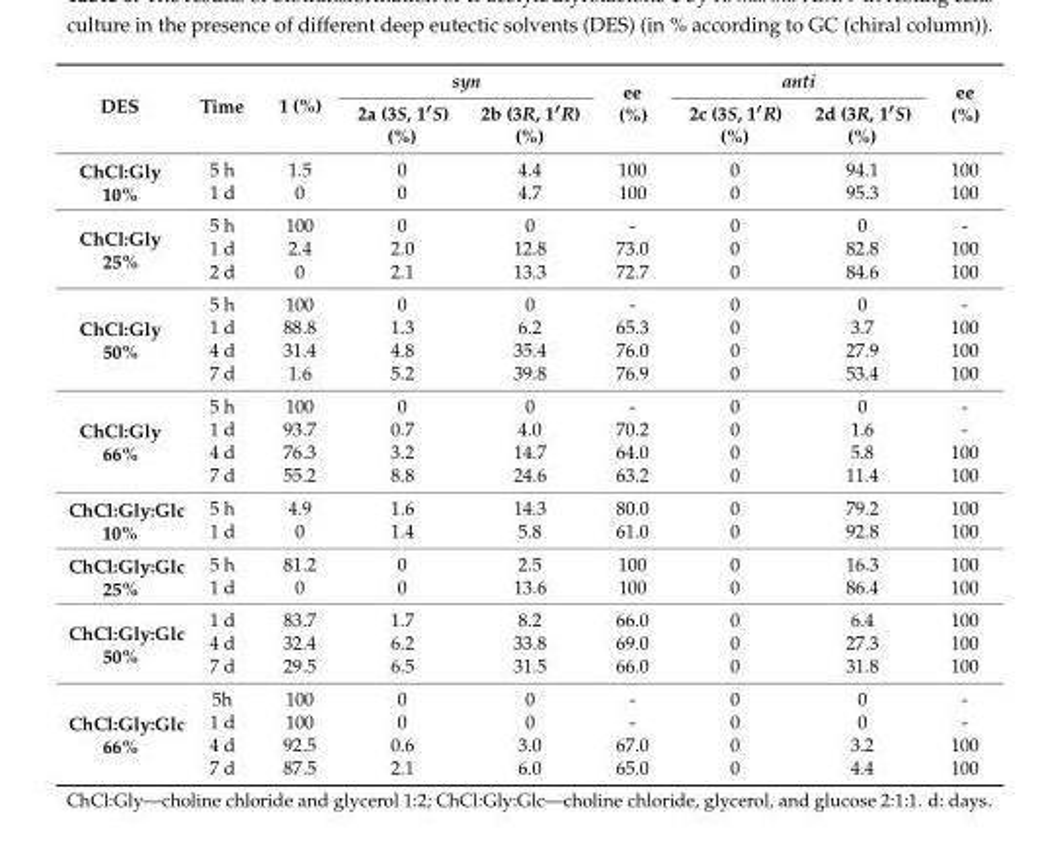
<table><thead><tr><td rowspan="2">DES</td><td rowspan="2">Time</td><td rowspan="2">1 (%)</td><td colspan="2">syn</td><td rowspan="2">ee (%)</td><td colspan="2">anti</td><td rowspan="2">ee (%)</td></tr><tr><td>2a (3S, 1′S) (%)</td><td>2b (3R, 1′R) (%)</td><td>2c (3S, 1′R) (%)</td><td>2d (3R, 1′S) (%)</td></tr></thead><tbody><tr><td rowspan="2">ChCl:Gly 10%</td><td>5 h</td><td>1.5</td><td>0</td><td>4.4</td><td>100</td><td>0</td><td>94.1</td><td>100</td></tr><tr><td>1 d</td><td>0</td><td>0</td><td>4.7</td><td>100</td><td>0</td><td>95.3</td><td>100</td></tr><tr><td rowspan="3">ChCl:Gly 25%</td><td>5 h</td><td>100</td><td>0</td><td>0</td><td>-</td><td>0</td><td>0</td><td>-</td></tr><tr><td>1 d</td><td>2.4</td><td>2.0</td><td>12.8</td><td>73.0</td><td>0</td><td>82.8</td><td>100</td></tr><tr><td>2 d</td><td>0</td><td>2.1</td><td>13.3</td><td>72.7</td><td>0</td><td>84.6</td><td>100</td></tr><tr><td rowspan="4">ChCl:Gly 50%</td><td>5 h</td><td>100</td><td>0</td><td>0</td><td>-</td><td>0</td><td>0</td><td>-</td></tr><tr><td>1 d</td><td>88.8</td><td>1.3</td><td>6.2</td><td>65.3</td><td>0</td><td>3.7</td><td>100</td></tr><tr><td>4 d</td><td>31.4</td><td>4.8</td><td>35.4</td><td>76.0</td><td>0</td><td>27.9</td><td>100</td></tr><tr><td>7 d</td><td>1.6</td><td>5.2</td><td>39.8</td><td>76.9</td><td>0</td><td>53.4</td><td>100</td></tr><tr><td rowspan="4">ChCl:Gly 66%</td><td>5 h</td><td>100</td><td>0</td><td>0</td><td>-</td><td>0</td><td>0</td><td>-</td></tr><tr><td>1 d</td><td>93.7</td><td>0.7</td><td>4.0</td><td>70.2</td><td>0</td><td>1.6</td><td>-</td></tr><tr><td>4 d</td><td>76.3</td><td>3.2</td><td>14.7</td><td>64.0</td><td>0</td><td>5.8</td><td>100</td></tr><tr><td>7 d</td><td>55.2</td><td>8.8</td><td>24.6</td><td>63.2</td><td>0</td><td>11.4</td><td>100</td></tr><tr><td rowspan="2">ChCl:Gly:Glc 10%</td><td>5 h</td><td>4.9</td><td>1.6</td><td>14.3</td><td>80.0</td><td>0</td><td>79.2</td><td>100</td></tr><tr><td>1 d</td><td>0</td><td>1.4</td><td>5.8</td><td>61.0</td><td>0</td><td>92.8</td><td>100</td></tr><tr><td rowspan="2">ChCl:Gly:Glc 25%</td><td>5 h</td><td>81.2</td><td>0</td><td>2.5</td><td>100</td><td>0</td><td>16.3</td><td>100</td></tr><tr><td>1 d</td><td>0</td><td>0</td><td>13.6</td><td>100</td><td>0</td><td>86.4</td><td>100</td></tr><tr><td rowspan="3">ChCl:Gly:Glc 50%</td><td>1 d</td><td>83.7</td><td>1.7</td><td>8.2</td><td>66.0</td><td>0</td><td>6.4</td><td>100</td></tr><tr><td>4 d</td><td>32.4</td><td>6.2</td><td>33.8</td><td>69.0</td><td>0</td><td>27.3</td><td>100</td></tr><tr><td>7 d</td><td>29.5</td><td>6.5</td><td>31.5</td><td>66.0</td><td>0</td><td>31.8</td><td>100</td></tr><tr><td rowspan="4">ChCl:Gly:Glc 66%</td><td>5h</td><td>100</td><td>0</td><td>0</td><td>-</td><td>0</td><td>0</td><td>-</td></tr><tr><td>1 d</td><td>100</td><td>0</td><td>0</td><td>-</td><td>0</td><td>0</td><td>-</td></tr><tr><td>4 d</td><td>92.5</td><td>0.6</td><td>3.0</td><td>67.0</td><td>0</td><td>3.2</td><td>100</td></tr><tr><td>7 d</td><td>87.5</td><td>2.1</td><td>6.0</td><td>65.0</td><td>0</td><td>4.4</td><td>100</td></tr></tbody></table>